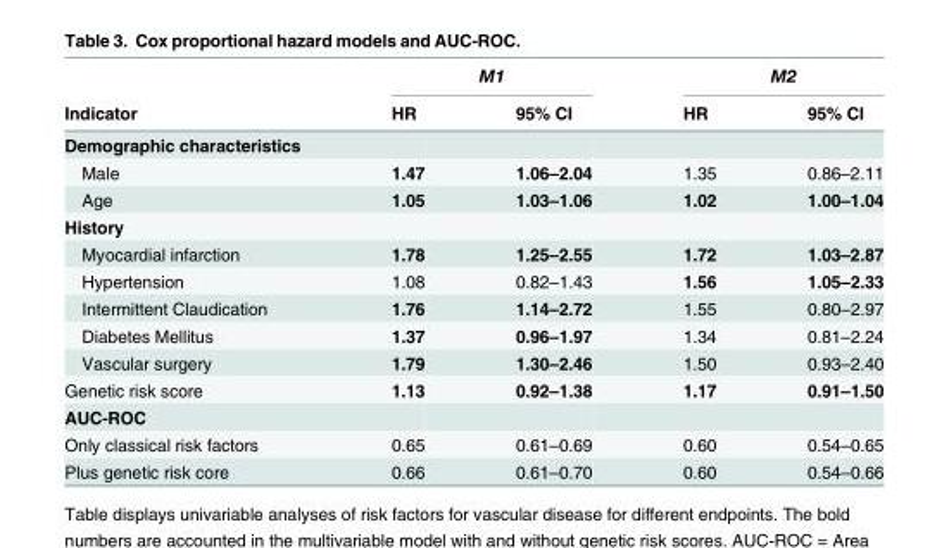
<table><thead><tr><td rowspan="2">Indicator</td><td colspan="2">M1</td><td colspan="2">M2</td></tr><tr><td>HR</td><td>95% CI</td><td>HR</td><td>95% CI</td></tr></thead><tbody><tr><td colspan="5">Demographic characteristics</td></tr><tr><td>Male</td><td>1.47</td><td>1.06–2.04</td><td>1.35</td><td>0.86–2.11</td></tr><tr><td>Age</td><td>1.05</td><td>1.03–1.06</td><td>1.02</td><td>1.00–1.04</td></tr><tr><td colspan="5">History</td></tr><tr><td>Myocardial infarction</td><td>1.78</td><td>1.25–2.55</td><td>1.72</td><td>1.03–2.87</td></tr><tr><td>Hypertension</td><td>1.08</td><td>0.82–1.43</td><td>1.56</td><td>1.05–2.33</td></tr><tr><td>Intermittent Claudication</td><td>1.76</td><td>1.14–2.72</td><td>1.55</td><td>0.80–2.97</td></tr><tr><td>Diabetes Mellitus</td><td>1.37</td><td>0.96–1.97</td><td>1.34</td><td>0.81–2.24</td></tr><tr><td>Vascular surgery</td><td>1.79</td><td>1.30–2.46</td><td>1.50</td><td>0.93–2.40</td></tr><tr><td>Genetic risk score</td><td>1.13</td><td>0.92–1.38</td><td>1.17</td><td>0.91–1.50</td></tr><tr><td colspan="5">AUC-ROC</td></tr><tr><td>Only classical risk factors</td><td>0.65</td><td>0.61–0.69</td><td>0.60</td><td>0.54–0.65</td></tr><tr><td>Plus genetic risk core</td><td>0.66</td><td>0.61–0.70</td><td>0.60</td><td>0.54–0.66</td></tr></tbody></table>